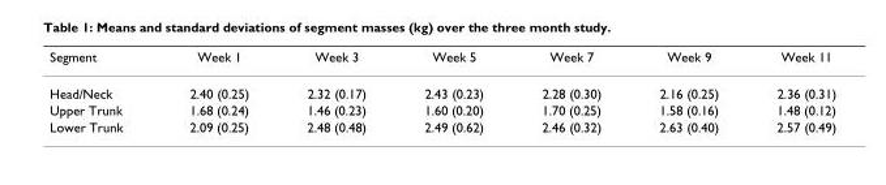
<table><thead><tr><td>Segment</td><td>Week 1</td><td>Week 3</td><td>Week 5</td><td>Week 7</td><td>Week 9</td><td>Week 11</td></tr></thead><tbody><tr><td>Head/Neck</td><td>2.40 (0.25)</td><td>2.32 (0.17)</td><td>2.43 (0.23)</td><td>2.28 (0.30)</td><td>2.16 (0.25)</td><td>2.36 (0.31)</td></tr><tr><td>Upper Trunk</td><td>1.68 (0.24)</td><td>1.46 (0.23)</td><td>1.60 (0.20)</td><td>1.70 (0.25)</td><td>1.58 (0.16)</td><td>1.48 (0.12)</td></tr><tr><td>Lower Trunk</td><td>2.09 (0.25)</td><td>2.48 (0.48)</td><td>2.49 (0.62)</td><td>2.46 (0.32)</td><td>2.63 (0.40)</td><td>2.57 (0.49)</td></tr></tbody></table>